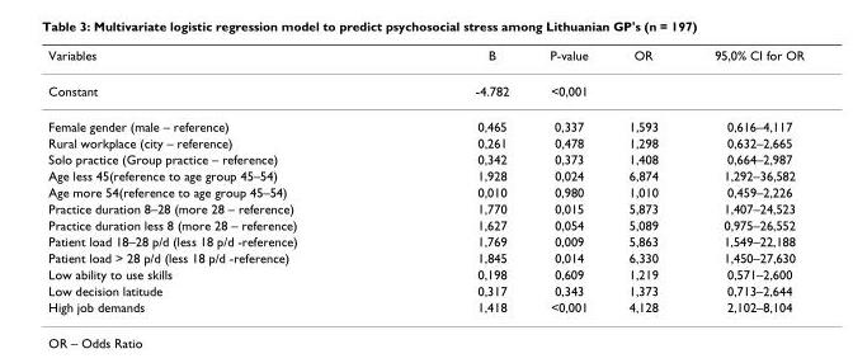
<table><thead><tr><td>Variables</td><td>B</td><td>P-value</td><td>OR</td><td>95,0% CI for OR</td></tr></thead><tbody><tr><td>Constant</td><td>-4.782</td><td>&lt;0,001</td><td></td><td></td></tr><tr><td>Female gender (male – reference)</td><td>0,465</td><td>0,337</td><td>1,593</td><td>0,616–4,117</td></tr><tr><td>Rural workplace (city – reference)</td><td>0,261</td><td>0,478</td><td>1,298</td><td>0,632–2,665</td></tr><tr><td>Solo practice (Group practice – reference)</td><td>0,342</td><td>0,373</td><td>1,408</td><td>0,664–2,987</td></tr><tr><td>Age less 45(reference to age group 45–54)</td><td>1,928</td><td>0,024</td><td>6,874</td><td>1,292–36,582</td></tr><tr><td>Age more 54(reference to age group 45–54)</td><td>0,010</td><td>0,980</td><td>1,010</td><td>0,459–2,226</td></tr><tr><td>Practice duration 8–28 (more 28 – reference)</td><td>1,770</td><td>0,015</td><td>5,873</td><td>1,407–24,523</td></tr><tr><td>Practice duration less 8 (more 28 – reference)</td><td>1,627</td><td>0,054</td><td>5,089</td><td>0,975–26,552</td></tr><tr><td>Patient load 18–28 p/d (less 18 p/d -reference)</td><td>1,769</td><td>0,009</td><td>5,863</td><td>1,549–22,188</td></tr><tr><td>Patient load &gt; 28 p/d (less 18 p/d -reference)</td><td>1,845</td><td>0,014</td><td>6,330</td><td>1,450–27,630</td></tr><tr><td>Low ability to use skills</td><td>0,198</td><td>0,609</td><td>1,219</td><td>0,571–2,600</td></tr><tr><td>Low decision latitude</td><td>0,317</td><td>0,343</td><td>1,373</td><td>0,713–2,644</td></tr><tr><td>High job demands</td><td>1,418</td><td>&lt;0,001</td><td>4,128</td><td>2,102–8,104</td></tr></tbody></table>